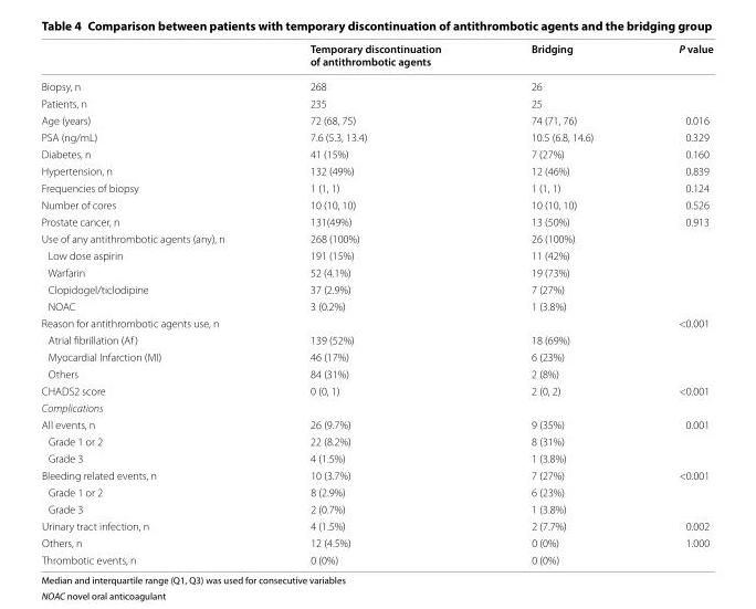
<table><thead><tr><td></td><td>Temporary discontinuation of antithrombotic agents</td><td>Bridging</td><td>P value</td></tr></thead><tbody><tr><td>Biopsy, n</td><td>268</td><td>26</td><td></td></tr><tr><td>Patients, n</td><td>235</td><td>25</td><td></td></tr><tr><td>Age (years)</td><td>72 (68, 75)</td><td>74 (71, 76)</td><td>0.016</td></tr><tr><td>PSA (ng/mL)</td><td>7.6 (5.3, 13.4)</td><td>10.5 (6.8, 14.6)</td><td>0.329</td></tr><tr><td>Diabetes, n</td><td>41 (15%)</td><td>7 (27%)</td><td>0.160</td></tr><tr><td>Hypertension, n</td><td>132 (49%)</td><td>12 (46%)</td><td>0.839</td></tr><tr><td>Frequencies of biopsy</td><td>1 (1, 1)</td><td>1 (1, 1)</td><td>0.124</td></tr><tr><td>Number of cores</td><td>10 (10, 10)</td><td>10 (10, 10)</td><td>0.526</td></tr><tr><td>Prostate cancer, n</td><td>131(49%)</td><td>13 (50%)</td><td>0.913</td></tr><tr><td>Use of any antithrombotic agents (any), n</td><td>268 (100%)</td><td>26 (100%)</td><td></td></tr><tr><td>Low dose aspirin</td><td>191 (15%)</td><td>11 (42%)</td><td></td></tr><tr><td>Warfarin</td><td>52 (4.1%)</td><td>19 (73%)</td><td></td></tr><tr><td>Clopidogel/ticlodipine</td><td>37 (2.9%)</td><td>7 (27%)</td><td></td></tr><tr><td>NOAC</td><td>3 (0.2%)</td><td>1 (3.8%)</td><td></td></tr><tr><td>Reason for antithrombotic agents use, n</td><td></td><td></td><td>&lt;0.001</td></tr><tr><td>Atrial fibrillation (Af)</td><td>139 (52%)</td><td>18 (69%)</td><td></td></tr><tr><td>Myocardial Infarction (MI)</td><td>46 (17%)</td><td>6 (23%)</td><td></td></tr><tr><td>Others</td><td>84 (31%)</td><td>2 (8%)</td><td></td></tr><tr><td>CHADS2 score</td><td>0 (0, 1)</td><td>2 (0, 2)</td><td>&lt;0.001</td></tr><tr><td colspan="4">Complications</td></tr><tr><td>All events, n</td><td>26 (9.7%)</td><td>9 (35%)</td><td>0.001</td></tr><tr><td>Grade 1 or 2</td><td>22 (8.2%)</td><td>8 (31%)</td><td></td></tr><tr><td>Grade 3</td><td>4 (1.5%)</td><td>1 (3.8%)</td><td></td></tr><tr><td>Bleeding related events, n</td><td>10 (3.7%)</td><td>7 (27%)</td><td>&lt;0.001</td></tr><tr><td>Grade 1 or 2</td><td>8 (2.9%)</td><td>6 (23%)</td><td></td></tr><tr><td>Grade 3</td><td>2 (0.7%)</td><td>1 (3.8%)</td><td></td></tr><tr><td>Urinary tract infection, n</td><td>4 (1.5%)</td><td>2 (7.7%)</td><td>0.002</td></tr><tr><td>Others, n</td><td>12 (4.5%)</td><td>0 (0%)</td><td>1.000</td></tr><tr><td>Thrombotic events, n</td><td>0 (0%)</td><td>0 (0%)</td><td></td></tr></tbody></table>